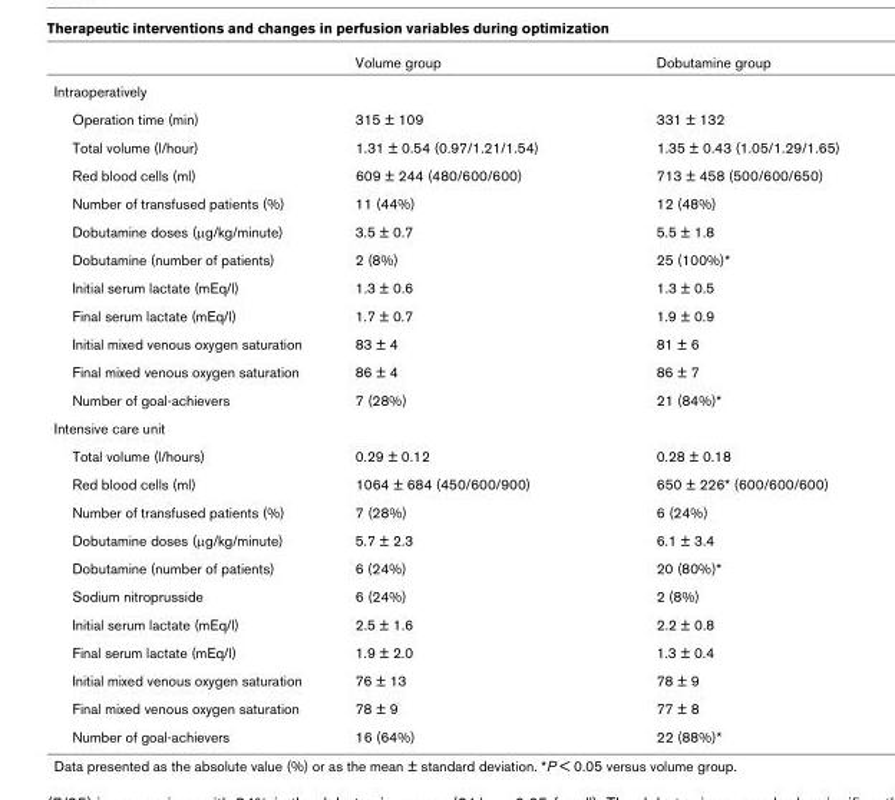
<table><thead><tr><td></td><td>Volume group</td><td>Dobutamine group</td></tr></thead><tbody><tr><td colspan="3">Intraoperatively</td></tr><tr><td>Operation time (min)</td><td>315 ± 109</td><td>331 ± 132</td></tr><tr><td>Total volume (l/hour)</td><td>1.31 ± 0.54 (0.97/1.21/1.54)</td><td>1.35 ± 0.43 (1.05/1.29/1.65)</td></tr><tr><td>Red blood cells (ml)</td><td>609 ± 244 (480/600/600)</td><td>713 ± 458 (500/600/650)</td></tr><tr><td>Number of transfused patients (%)</td><td>11 (44%)</td><td>12 (48%)</td></tr><tr><td>Dobutamine doses (µg/kg/minute)</td><td>3.5 ± 0.7</td><td>5.5 ± 1.8</td></tr><tr><td>Dobutamine (number of patients)</td><td>2 (8%)</td><td>25 (100%)*</td></tr><tr><td>Initial serum lactate (mEq/l)</td><td>1.3 ± 0.6</td><td>1.3 ± 0.5</td></tr><tr><td>Final serum lactate (mEq/l)</td><td>1.7 ± 0.7</td><td>1.9 ± 0.9</td></tr><tr><td>Initial mixed venous oxygen saturation</td><td>83 ± 4</td><td>81 ± 6</td></tr><tr><td>Final mixed venous oxygen saturation</td><td>86 ± 4</td><td>86 ± 7</td></tr><tr><td>Number of goal-achievers</td><td>7 (28%)</td><td>21 (84%)*</td></tr><tr><td colspan="3">Intensive care unit</td></tr><tr><td>Total volume (l/hours)</td><td>0.29 ± 0.12</td><td>0.28 ± 0.18</td></tr><tr><td>Red blood cells (ml)</td><td>1064 ± 684 (450/600/900)</td><td>650 ± 226* (600/600/600)</td></tr><tr><td>Number of transfused patients (%)</td><td>7 (28%)</td><td>6 (24%)</td></tr><tr><td>Dobutamine doses (µg/kg/minute)</td><td>5.7 ± 2.3</td><td>6.1 ± 3.4</td></tr><tr><td>Dobutamine (number of patients)</td><td>6 (24%)</td><td>20 (80%)*</td></tr><tr><td>Sodium nitroprusside</td><td>6 (24%)</td><td>2 (8%)</td></tr><tr><td>Initial serum lactate (mEq/l)</td><td>2.5 ± 1.6</td><td>2.2 ± 0.8</td></tr><tr><td>Final serum lactate (mEq/l)</td><td>1.9 ± 2.0</td><td>1.3 ± 0.4</td></tr><tr><td>Initial mixed venous oxygen saturation</td><td>76 ± 13</td><td>78 ± 9</td></tr><tr><td>Final mixed venous oxygen saturation</td><td>78 ± 9</td><td>77 ± 8</td></tr><tr><td>Number of goal-achievers</td><td>16 (64%)</td><td>22 (88%)*</td></tr></tbody></table>